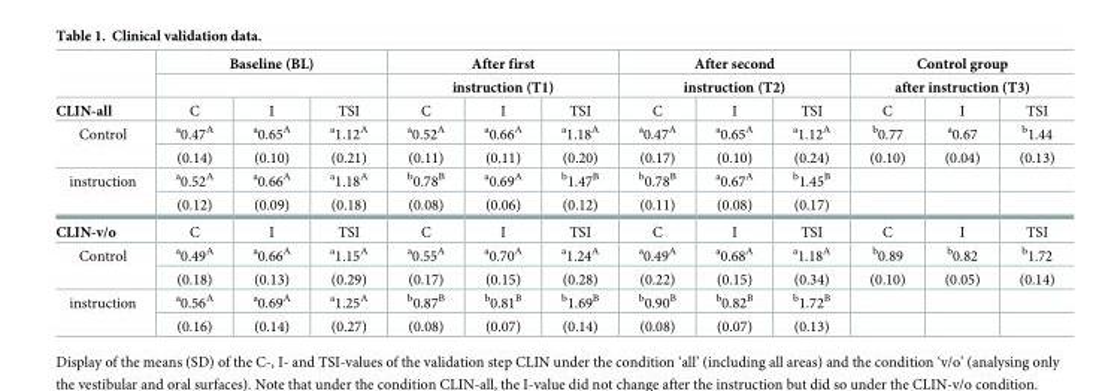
<table><thead><tr><td rowspan="3">CLIN-all</td><td colspan="3">Baseline (BL)</td><td rowspan="2" colspan="3">After first instruction (T1)</td><td rowspan="2" colspan="3">After second instruction (T2)</td><td rowspan="2" colspan="3">Control group after instruction (T3)</td></tr><tr><td rowspan="2">C</td><td rowspan="2">I</td><td rowspan="2">TSI</td></tr><tr><td>C</td><td>I</td><td>TSI</td><td>C</td><td>I</td><td>TSI</td><td>C</td><td>I</td><td>TSI</td></tr></thead><tbody><tr><td rowspan="2">Control</td><td><sup>a</sup>0.47<sup>A</sup></td><td><sup>a</sup>0.65<sup>A</sup></td><td><sup>a</sup>1.12<sup>A</sup></td><td><sup>a</sup>0.52<sup>A</sup></td><td><sup>a</sup>0.66<sup>A</sup></td><td><sup>a</sup>1.18<sup>A</sup></td><td><sup>a</sup>0.47<sup>A</sup></td><td><sup>a</sup>0.65<sup>A</sup></td><td><sup>a</sup>1.12<sup>A</sup></td><td><sup>b</sup>0.77</td><td><sup>a</sup>0.67</td><td><sup>b</sup>1.44</td></tr><tr><td>(0.14)</td><td>(0.10)</td><td>(0.21)</td><td>(0.11)</td><td>(0.11)</td><td>(0.20)</td><td>(0.17)</td><td>(0.10)</td><td>(0.24)</td><td>(0.10)</td><td>(0.04)</td><td>(0.13)</td></tr><tr><td rowspan="2">instruction</td><td><sup>a</sup>0.52<sup>A</sup></td><td><sup>a</sup>0.66<sup>A</sup></td><td><sup>a</sup>1.18<sup>A</sup></td><td><sup>b</sup>0.78<sup>B</sup></td><td><sup>a</sup>0.69<sup>A</sup></td><td><sup>b</sup>1.47<sup>B</sup></td><td><sup>b</sup>0.78<sup>B</sup></td><td><sup>a</sup>0.67<sup>A</sup></td><td><sup>b</sup>1.45<sup>B</sup></td><td></td><td></td><td></td></tr><tr><td>(0.12)</td><td>(0.09)</td><td>(0.18)</td><td>(0.08)</td><td>(0.06)</td><td>(0.12)</td><td>(0.11)</td><td>(0.08)</td><td>(0.17)</td><td></td><td></td><td></td></tr><tr><td>CLIN-v/o</td><td>C</td><td>I</td><td>TSI</td><td>C</td><td>I</td><td>TSI</td><td>C</td><td>I</td><td>TSI</td><td>C</td><td>I</td><td>TSI</td></tr><tr><td rowspan="2">Control</td><td><sup>a</sup>0.49<sup>A</sup></td><td><sup>a</sup>0.66<sup>A</sup></td><td><sup>a</sup>1.15<sup>A</sup></td><td><sup>a</sup>0.55<sup>A</sup></td><td><sup>a</sup>0.70<sup>A</sup></td><td><sup>a</sup>1.24<sup>A</sup></td><td><sup>a</sup>0.49<sup>A</sup></td><td><sup>a</sup>0.68<sup>A</sup></td><td><sup>a</sup>1.18<sup>A</sup></td><td><sup>b</sup>0.89</td><td><sup>b</sup>0.82</td><td><sup>b</sup>1.72</td></tr><tr><td>(0.18)</td><td>(0.13)</td><td>(0.29)</td><td>(0.17)</td><td>(0.15)</td><td>(0.28)</td><td>(0.22)</td><td>(0.15)</td><td>(0.34)</td><td>(0.10)</td><td>(0.05)</td><td>(0.14)</td></tr><tr><td rowspan="2">instruction</td><td><sup>a</sup>0.56<sup>A</sup></td><td><sup>a</sup>0.69<sup>A</sup></td><td><sup>a</sup>1.25<sup>A</sup></td><td><sup>b</sup>0.87<sup>B</sup></td><td><sup>b</sup>0.81<sup>B</sup></td><td><sup>b</sup>1.69<sup>B</sup></td><td><sup>b</sup>0.90<sup>B</sup></td><td><sup>b</sup>0.82<sup>B</sup></td><td><sup>b</sup>1.72<sup>B</sup></td><td></td><td></td><td></td></tr><tr><td>(0.16)</td><td>(0.14)</td><td>(0.27)</td><td>(0.08)</td><td>(0.07)</td><td>(0.14)</td><td>(0.08)</td><td>(0.07)</td><td>(0.13)</td><td></td><td></td><td></td></tr></tbody></table>